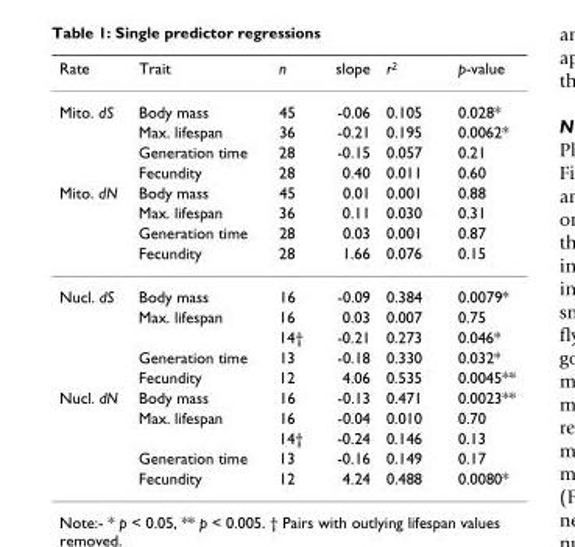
<table><thead><tr><td>Rate</td><td>Trait</td><td>n</td><td>slope</td><td>r<sup>2</sup></td><td>p-value</td></tr></thead><tbody><tr><td rowspan="4">Mito. dS</td><td>Body mass</td><td>45</td><td>-0.06</td><td>0.105</td><td>0.028*</td></tr><tr><td>Max. lifespan</td><td>36</td><td>-0.21</td><td>0.195</td><td>0.0062*</td></tr><tr><td>Generation time</td><td>28</td><td>-0.15</td><td>0.057</td><td>0.21</td></tr><tr><td>Fecundity</td><td>28</td><td>0.40</td><td>0.011</td><td>0.60</td></tr><tr><td rowspan="4">Mito. dN</td><td>Body mass</td><td>45</td><td>0.01</td><td>0.001</td><td>0.88</td></tr><tr><td>Max. lifespan</td><td>36</td><td>0.11</td><td>0.030</td><td>0.31</td></tr><tr><td>Generation time</td><td>28</td><td>0.03</td><td>0.001</td><td>0.87</td></tr><tr><td>Fecundity</td><td>28</td><td>1.66</td><td>0.076</td><td>0.15</td></tr><tr><td rowspan="5">Nucl. dS</td><td>Body mass</td><td>16</td><td>-0.09</td><td>0.384</td><td>0.0079*</td></tr><tr><td>Max. lifespan</td><td>16</td><td>0.03</td><td>0.007</td><td>0.75</td></tr><tr><td></td><td>14†</td><td>-0.21</td><td>0.273</td><td>0.046*</td></tr><tr><td>Generation time</td><td>13</td><td>-0.18</td><td>0.330</td><td>0.032*</td></tr><tr><td>Fecundity</td><td>12</td><td>4.06</td><td>0.535</td><td>0.0045**</td></tr><tr><td rowspan="5">Nucl. dN</td><td>Body mass</td><td>16</td><td>-0.13</td><td>0.471</td><td>0.0023**</td></tr><tr><td>Max. lifespan</td><td>16</td><td>-0.04</td><td>0.010</td><td>0.70</td></tr><tr><td></td><td>14†</td><td>-0.24</td><td>0.146</td><td>0.13</td></tr><tr><td>Generation time</td><td>13</td><td>-0.16</td><td>0.149</td><td>0.17</td></tr><tr><td>Fecundity</td><td>12</td><td>4.24</td><td>0.488</td><td>0.0080*</td></tr></tbody></table>